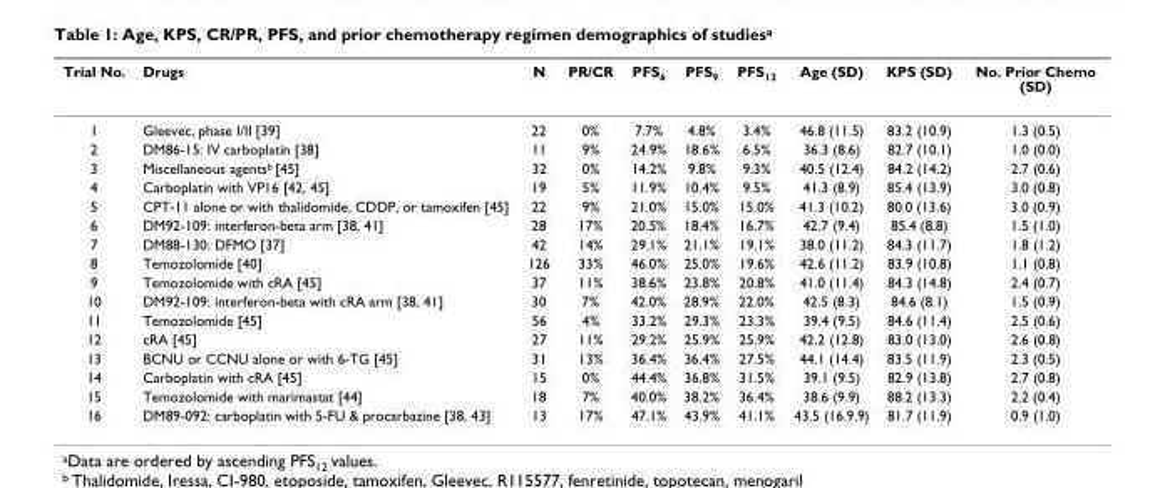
<table><thead><tr><td>Trial No.</td><td>Drugs</td><td>N</td><td>PR/CR</td><td>PFS<sub>6</sub></td><td>PFS<sub>9</sub></td><td>PFS<sub>12</sub></td><td>Age (SD)</td><td>KPS (SD)</td><td>No. Prior Chemo (SD)</td></tr></thead><tbody><tr><td>1</td><td>Gleevec, phase I/II [39]</td><td>22</td><td>0%</td><td>7.7%</td><td>4.8%</td><td>3.4%</td><td>46.8 (11.5)</td><td>83.2 (10.9)</td><td>1.3 (0.5)</td></tr><tr><td>2</td><td>DM86-15: IV carboplatin [38]</td><td>11</td><td>9%</td><td>24.9%</td><td>18.6%</td><td>6.5%</td><td>36.3 (8.6)</td><td>82.7 (10.1)</td><td>1.0 (0.0)</td></tr><tr><td>3</td><td>Miscellaneous agents<sup>b</sup> [45]</td><td>32</td><td>0%</td><td>14.2%</td><td>9.8%</td><td>9.3%</td><td>40.5 (12.4)</td><td>84.2 (14.2)</td><td>2.7 (0.6)</td></tr><tr><td>4</td><td>Carboplatin with VP16 [42, 45]</td><td>19</td><td>5%</td><td>11.9%</td><td>10.4%</td><td>9.5%</td><td>41.3 (8.9)</td><td>85.4 (13.9)</td><td>3.0 (0.8)</td></tr><tr><td>5</td><td>CPT-11 alone or with thalidomide, CDDP, or tamoxifen [45]</td><td>22</td><td>9%</td><td>21.0%</td><td>15.0%</td><td>15.0%</td><td>41.3 (10.2)</td><td>80.0 (13.6)</td><td>3.0 (0.9)</td></tr><tr><td>6</td><td>DM92-109: interferon-beta arm [38, 41]</td><td>28</td><td>17%</td><td>20.5%</td><td>18.4%</td><td>16.7%</td><td>42.7 (9.4)</td><td>85.4 (8.8)</td><td>1.5 (1.0)</td></tr><tr><td>7</td><td>DM88-130: DFMO [37]</td><td>42</td><td>14%</td><td>29.1%</td><td>21.1%</td><td>19.1%</td><td>38.0 (11.2)</td><td>84.3 (11.7)</td><td>1.8 (1.2)</td></tr><tr><td>8</td><td>Temozolomide [40]</td><td>126</td><td>33%</td><td>46.0%</td><td>25.0%</td><td>19.6%</td><td>42.6 (11.2)</td><td>83.9 (10.8)</td><td>1.1 (0.8)</td></tr><tr><td>9</td><td>Temozolomide with cRA [45]</td><td>37</td><td>11%</td><td>38.6%</td><td>23.8%</td><td>20.8%</td><td>41.0 (11.4)</td><td>84.3 (14.8)</td><td>2.4 (0.7)</td></tr><tr><td>10</td><td>DM92-109: interferon-beta with cRA arm [38, 41]</td><td>30</td><td>7%</td><td>42.0%</td><td>28.9%</td><td>22.0%</td><td>42.5 (8.3)</td><td>84.6 (8.1)</td><td>1.5 (0.9)</td></tr><tr><td>11</td><td>Temozolomide [45]</td><td>56</td><td>4%</td><td>33.2%</td><td>29.3%</td><td>23.3%</td><td>39.4 (9.5)</td><td>84.6 (11.4)</td><td>2.5 (0.6)</td></tr><tr><td>12</td><td>cRA [45]</td><td>27</td><td>11%</td><td>29.2%</td><td>25.9%</td><td>25.9%</td><td>42.2 (12.8)</td><td>83.0 (13.0)</td><td>2.6 (0.8)</td></tr><tr><td>13</td><td>BCNU or CCNU alone or with 6-TG [45]</td><td>31</td><td>13%</td><td>36.4%</td><td>36.4%</td><td>27.5%</td><td>44.1 (14.4)</td><td>83.5 (11.9)</td><td>2.3 (0.5)</td></tr><tr><td>14</td><td>Carboplatin with cRA [45]</td><td>15</td><td>0%</td><td>44.4%</td><td>36.8%</td><td>31.5%</td><td>39.1 (9.5)</td><td>82.9 (13.8)</td><td>2.7 (0.8)</td></tr><tr><td>15</td><td>Temozolomide with marimastat [44]</td><td>18</td><td>7%</td><td>40.0%</td><td>38.2%</td><td>36.4%</td><td>38.6 (9.9)</td><td>88.2 (13.3)</td><td>2.2 (0.4)</td></tr><tr><td>16</td><td>DM89-092: carboplatin with 5-FU &amp; procarbazine [38, 43]</td><td>13</td><td>17%</td><td>47.1%</td><td>43.9%</td><td>41.1%</td><td>43.5 (16.9.9)</td><td>81.7 (11.9)</td><td>0.9 (1.0)</td></tr></tbody></table>